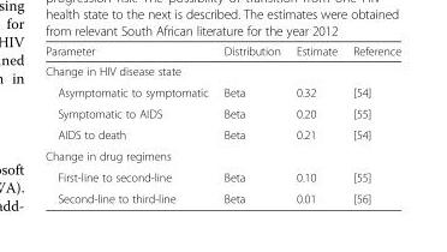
<table><thead><tr><td>Parameter</td><td>Distribution</td><td>Estimate</td><td>Reference</td></tr></thead><tbody><tr><td colspan="4">Change in HIV disease state</td></tr><tr><td>Asymptomatic to symptomatic</td><td>Beta</td><td>0.32</td><td>[54]</td></tr><tr><td>Symptomatic to AIDS</td><td>Beta</td><td>0.20</td><td>[55]</td></tr><tr><td>AIDS to death</td><td>Beta</td><td>0.21</td><td>[54]</td></tr><tr><td colspan="4">Change in drug regimens</td></tr><tr><td>First-line to second-line</td><td>Beta</td><td>0.10</td><td>[55]</td></tr><tr><td>Second-line to third-line</td><td>Beta</td><td>0.01</td><td>[56]</td></tr></tbody></table>